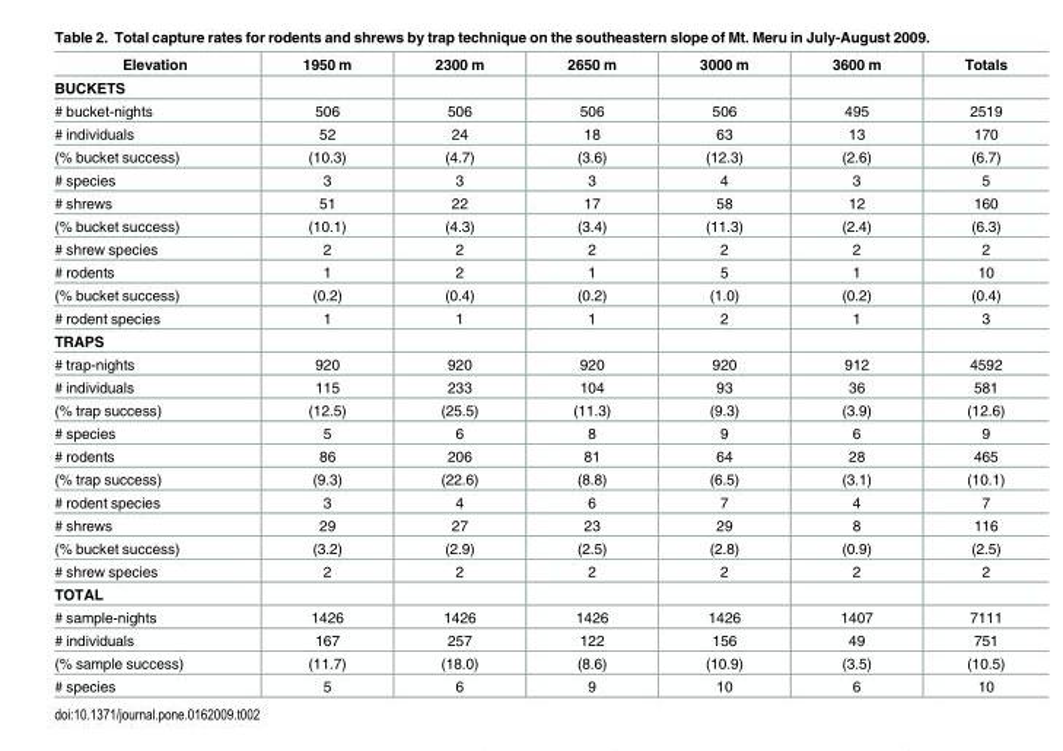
<table><thead><tr><td>Elevation</td><td>1950 m</td><td>2300 m</td><td>2650 m</td><td>3000 m</td><td>3600 m</td><td>Totals</td></tr></thead><tbody><tr><td colspan="7">BUCKETS</td></tr><tr><td># bucket-nights</td><td>506</td><td>506</td><td>506</td><td>506</td><td>495</td><td>2519</td></tr><tr><td># individuals</td><td>52</td><td>24</td><td>18</td><td>63</td><td>13</td><td>170</td></tr><tr><td>(% bucket success)</td><td>(10.3)</td><td>(4.7)</td><td>(3.6)</td><td>(12.3)</td><td>(2.6)</td><td>(6.7)</td></tr><tr><td># species</td><td>3</td><td>3</td><td>3</td><td>4</td><td>3</td><td>5</td></tr><tr><td># shrews</td><td>51</td><td>22</td><td>17</td><td>58</td><td>12</td><td>160</td></tr><tr><td>(% bucket success)</td><td>(10.1)</td><td>(4.3)</td><td>(3.4)</td><td>(11.3)</td><td>(2.4)</td><td>(6.3)</td></tr><tr><td># shrew species</td><td>2</td><td>2</td><td>2</td><td>2</td><td>2</td><td>2</td></tr><tr><td># rodents</td><td>1</td><td>2</td><td>1</td><td>5</td><td>1</td><td>10</td></tr><tr><td>(% bucket success)</td><td>(0.2)</td><td>(0.4)</td><td>(0.2)</td><td>(1.0)</td><td>(0.2)</td><td>(0.4)</td></tr><tr><td># rodent species</td><td>1</td><td>1</td><td>1</td><td>2</td><td>1</td><td>3</td></tr><tr><td colspan="7">TRAPS</td></tr><tr><td># trap-nights</td><td>920</td><td>920</td><td>920</td><td>920</td><td>912</td><td>4592</td></tr><tr><td># individuals</td><td>115</td><td>233</td><td>104</td><td>93</td><td>36</td><td>581</td></tr><tr><td>(% trap success)</td><td>(12.5)</td><td>(25.5)</td><td>(11.3)</td><td>(9.3)</td><td>(3.9)</td><td>(12.6)</td></tr><tr><td># species</td><td>5</td><td>6</td><td>8</td><td>9</td><td>6</td><td>9</td></tr><tr><td># rodents</td><td>86</td><td>206</td><td>81</td><td>64</td><td>28</td><td>465</td></tr><tr><td>(% trap success)</td><td>(9.3)</td><td>(22.6)</td><td>(8.8)</td><td>(6.5)</td><td>(3.1)</td><td>(10.1)</td></tr><tr><td># rodent species</td><td>3</td><td>4</td><td>6</td><td>7</td><td>4</td><td>7</td></tr><tr><td># shrews</td><td>29</td><td>27</td><td>23</td><td>29</td><td>8</td><td>116</td></tr><tr><td>(% bucket success)</td><td>(3.2)</td><td>(2.9)</td><td>(2.5)</td><td>(2.8)</td><td>(0.9)</td><td>(2.5)</td></tr><tr><td># shrew species</td><td>2</td><td>2</td><td>2</td><td>2</td><td>2</td><td>2</td></tr><tr><td colspan="7">TOTAL</td></tr><tr><td># sample-nights</td><td>1426</td><td>1426</td><td>1426</td><td>1426</td><td>1407</td><td>7111</td></tr><tr><td># individuals</td><td>167</td><td>257</td><td>122</td><td>156</td><td>49</td><td>751</td></tr><tr><td>(% sample success)</td><td>(11.7)</td><td>(18.0)</td><td>(8.6)</td><td>(10.9)</td><td>(3.5)</td><td>(10.5)</td></tr><tr><td># species</td><td>5</td><td>6</td><td>9</td><td>10</td><td>6</td><td>10</td></tr></tbody></table>